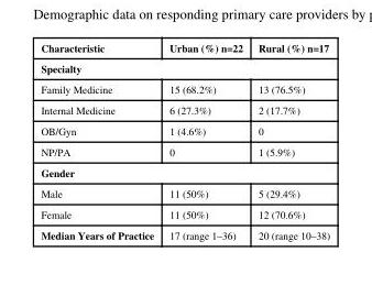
<table><thead><tr><td>Characteristic</td><td>Urban (%) n=22</td><td>Rural (%) n=17</td></tr></thead><tbody><tr><td colspan="3">Specialty</td></tr><tr><td>Family Medicine</td><td>15 (68.2%)</td><td>13 (76.5%)</td></tr><tr><td>Internal Medicine</td><td>6 (27.3%)</td><td>2 (17.7%)</td></tr><tr><td>OB/Gyn</td><td>1 (4.6%)</td><td>0</td></tr><tr><td>NP/PA</td><td>0</td><td>1 (5.9%)</td></tr><tr><td colspan="3">Gender</td></tr><tr><td>Male</td><td>11 (50%)</td><td>5 (29.4%)</td></tr><tr><td>Female</td><td>11 (50%)</td><td>12 (70.6%)</td></tr><tr><td>Median Years of Practice</td><td>17 (range 1–36)</td><td>20 (range 10–38)</td></tr></tbody></table>